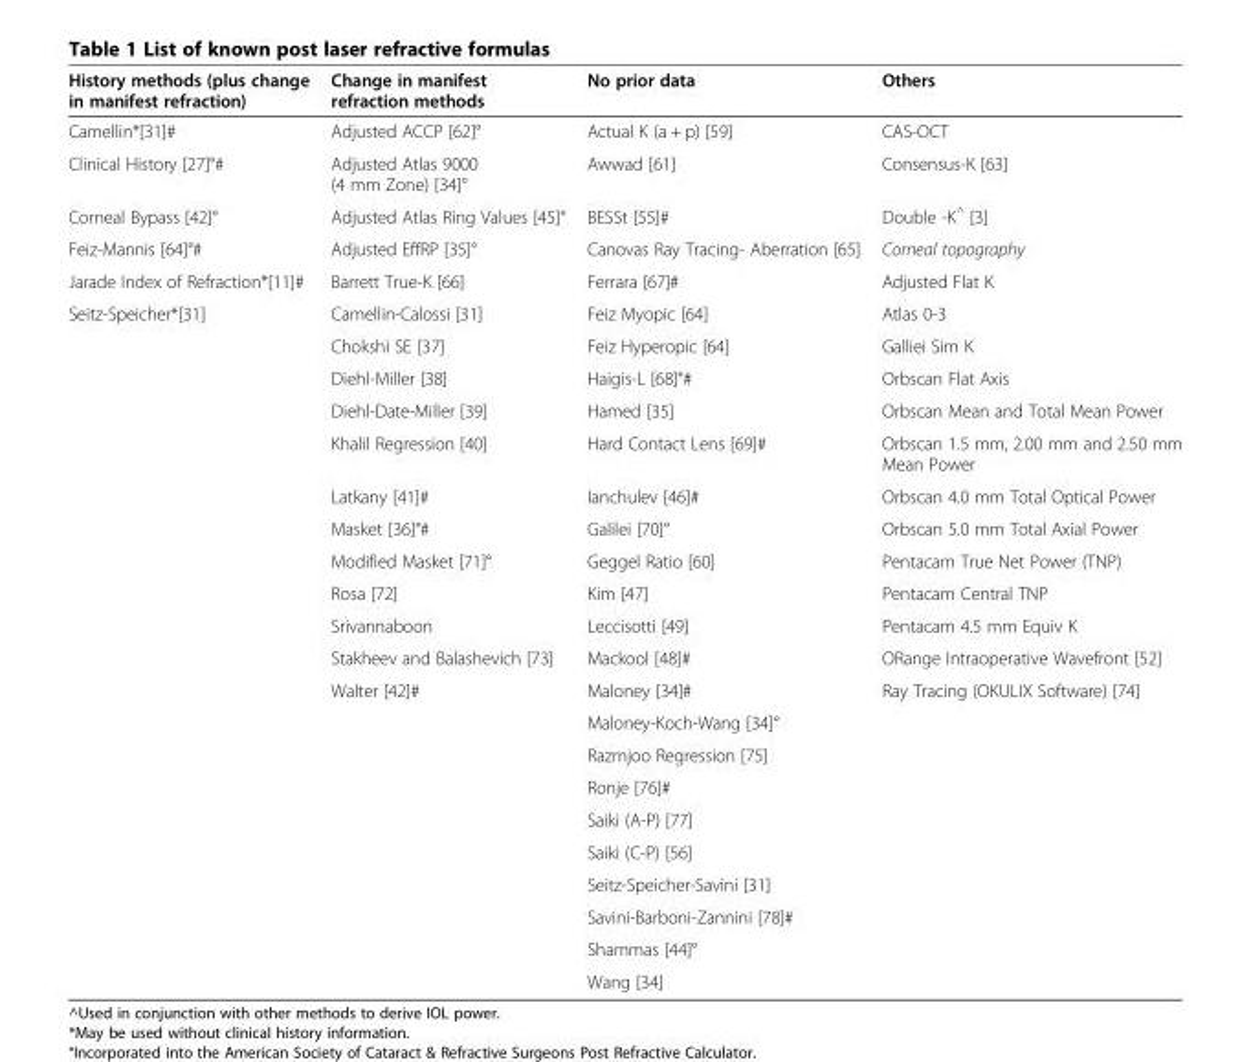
<table><thead><tr><td>History methods (plus change in manifest refraction)</td><td>Change in manifest refraction methods</td><td>No prior data</td><td>Others</td></tr></thead><tbody><tr><td>Camellin*[31]#</td><td>Adjusted ACCP [62]°</td><td>Actual K (a + p) [59]</td><td>CAS-OCT</td></tr><tr><td>Clinical History [27]°#</td><td>Adjusted Atlas 9000 (4 mm Zone) [34]°</td><td>Awwad [61]</td><td>Consensus-K [63]</td></tr><tr><td>Corneal Bypass [42]°</td><td>Adjusted Atlas Ring Values [45]°</td><td>BESSt [55]#</td><td>Double -K<sup>^</sup> [3]</td></tr><tr><td>Feiz-Mannis [64]°#</td><td>Adjusted EffRP [35]°</td><td>Canovas Ray Tracing- Aberration [65]</td><td>Corneal topography</td></tr><tr><td>Jarade Index of Refraction*[11]#</td><td>Barrett True-K [66]</td><td>Ferrara [67]#</td><td>Adjusted Flat K</td></tr><tr><td rowspan="21">Seitz-Speicher*[31]</td><td>Camellin-Calossi [31]</td><td>Feiz Myopic [64]</td><td>Atlas 0-3</td></tr><tr><td>Chokshi SE [37]</td><td>Feiz Hyperopic [64]</td><td>Galliei Sim K</td></tr><tr><td>Diehl-Miller [38]</td><td>Haigis-L [68]°#</td><td>Orbscan Flat Axis</td></tr><tr><td>Diehl-Date-Miller [39]</td><td>Hamed [35]</td><td>Orbscan Mean and Total Mean Power</td></tr><tr><td>Khalil Regression [40]</td><td>Hard Contact Lens [69]#</td><td>Orbscan 1.5 mm, 2.00 mm and 2.50 mm Mean Power</td></tr><tr><td>Latkany [41]#</td><td>Ianchulev [46]#</td><td>Orbscan 4.0 mm Total Optical Power</td></tr><tr><td>Masket [36]°#</td><td>Galilei [70]°</td><td>Orbscan 5.0 mm Total Axial Power</td></tr><tr><td>Modified Masket [71]°</td><td>Geggel Ratio [60]</td><td>Pentacam True Net Power (TNP)</td></tr><tr><td>Rosa [72]</td><td>Kim [47]</td><td>Pentacam Central TNP</td></tr><tr><td>Srivannaboon</td><td>Leccisotti [49]</td><td>Pentacam 4.5 mm Equiv K</td></tr><tr><td>Stakheev and Balashevich [73]</td><td>Mackool [48]#</td><td>ORange Intraoperative Wavefront [52]</td></tr><tr><td>Walter [42]#</td><td>Maloney [34]#</td><td>Ray Tracing (OKULIX Software) [74]</td></tr><tr><td></td><td>Maloney-Koch-Wang [34]°</td><td></td></tr><tr><td></td><td>Razmjoo Regression [75]</td><td></td></tr><tr><td></td><td>Ronje [76]#</td><td></td></tr><tr><td></td><td>Saiki (A-P) [77]</td><td></td></tr><tr><td></td><td>Saiki (C-P) [56]</td><td></td></tr><tr><td></td><td>Seitz-Speicher-Savini [31]</td><td></td></tr><tr><td></td><td>Savini-Barboni-Zannini [78]#</td><td></td></tr><tr><td></td><td>Shammas [44]°</td><td></td></tr><tr><td></td><td>Wang [34]</td><td></td></tr></tbody></table>